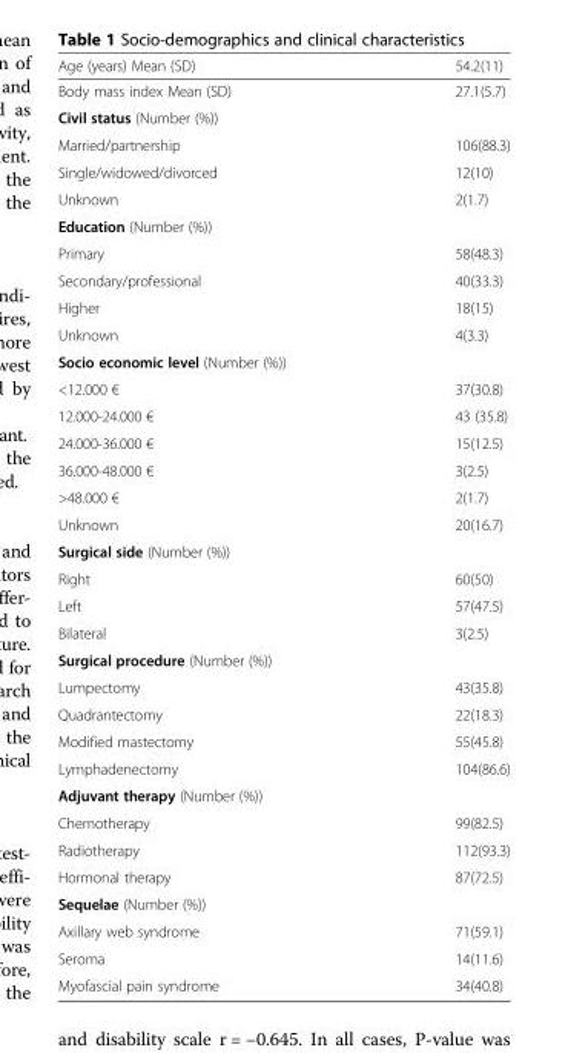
<table><thead><tr><td>Age (years) Mean (SD)</td><td>54.2(11)</td></tr></thead><tbody><tr><td>Body mass index Mean (SD)</td><td>27.1(5.7)</td></tr><tr><td colspan="2">Civil status (Number (%))</td></tr><tr><td>Married/partnership</td><td>106(88.3)</td></tr><tr><td>Single/widowed/divorced</td><td>12(10)</td></tr><tr><td>Unknown</td><td>2(1.7)</td></tr><tr><td colspan="2">Education (Number (%))</td></tr><tr><td>Primary</td><td>58(48.3)</td></tr><tr><td>Secondary/professional</td><td>40(33.3)</td></tr><tr><td>Higher</td><td>18(15)</td></tr><tr><td>Unknown</td><td>4(3.3)</td></tr><tr><td colspan="2">Socio economic level (Number (%))</td></tr><tr><td>&lt;12.000 €</td><td>37(30.8)</td></tr><tr><td>12.000-24.000 €</td><td>43 (35.8)</td></tr><tr><td>24.000-36.000 €</td><td>15(12.5)</td></tr><tr><td>36.000-48.000 €</td><td>3(2.5)</td></tr><tr><td>&gt;48.000 €</td><td>2(1.7)</td></tr><tr><td>Unknown</td><td>20(16.7)</td></tr><tr><td colspan="2">Surgical side (Number (%))</td></tr><tr><td>Right</td><td>60(50)</td></tr><tr><td>Left</td><td>57(47.5)</td></tr><tr><td>Bilateral</td><td>3(2.5)</td></tr><tr><td colspan="2">Surgical procedure (Number (%))</td></tr><tr><td>Lumpectomy</td><td>43(35.8)</td></tr><tr><td>Quadrantectomy</td><td>22(18.3)</td></tr><tr><td>Modified mastectomy</td><td>55(45.8)</td></tr><tr><td>Lymphadenectomy</td><td>104(86.6)</td></tr><tr><td colspan="2">Adjuvant therapy (Number (%))</td></tr><tr><td>Chemotherapy</td><td>99(82.5)</td></tr><tr><td>Radiotherapy</td><td>112(93.3)</td></tr><tr><td>Hormonal therapy</td><td>87(72.5)</td></tr><tr><td colspan="2">Sequelae (Number (%))</td></tr><tr><td>Axillary web syndrome</td><td>71(59.1)</td></tr><tr><td>Seroma</td><td>14(11.6)</td></tr><tr><td>Myofascial pain syndrome</td><td>34(40.8)</td></tr></tbody></table>